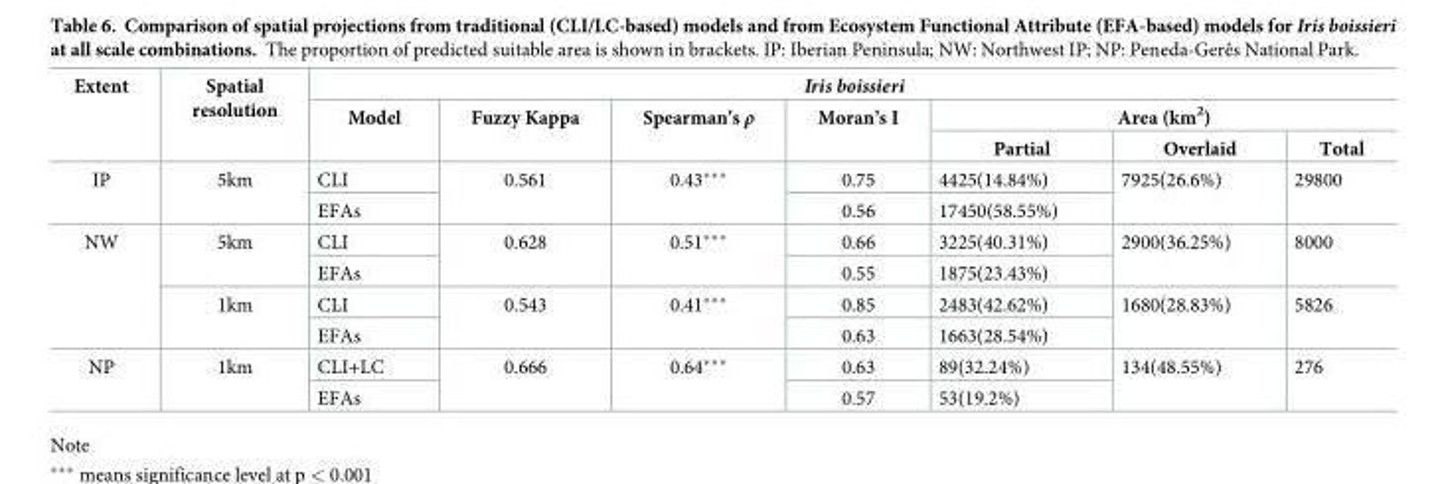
<table><thead><tr><td rowspan="3">Extent</td><td rowspan="3">Spatial resolution</td><td colspan="7">Iris boissieri</td></tr><tr><td rowspan="2">Model</td><td rowspan="2">Fuzzy Kappa</td><td rowspan="2">Spearman’s ρ</td><td rowspan="2">Moran’s I</td><td colspan="3">Area (km<sup>2</sup>)</td></tr><tr><td>Partial</td><td>Overlaid</td><td>Total</td></tr></thead><tbody><tr><td rowspan="2">IP</td><td rowspan="2">5km</td><td>CLI</td><td rowspan="2">0.561</td><td rowspan="2">0.43***</td><td>0.75</td><td>4425(14.84%)</td><td rowspan="2">7925(26.6%)</td><td rowspan="2">29800</td></tr><tr><td>EFAs</td><td>0.56</td><td>17450(58.55%)</td></tr><tr><td rowspan="4">NW</td><td rowspan="2">5km</td><td>CLI</td><td rowspan="2">0.628</td><td rowspan="2">0.51***</td><td>0.66</td><td>3225(40.31%)</td><td rowspan="2">2900(36.25%)</td><td rowspan="2">8000</td></tr><tr><td>EFAs</td><td>0.55</td><td>1875(23.43%)</td></tr><tr><td rowspan="2">1km</td><td>CLI</td><td rowspan="2">0.543</td><td rowspan="2">0.41***</td><td>0.85</td><td>2483(42.62%)</td><td rowspan="2">1680(28.83%)</td><td rowspan="2">5826</td></tr><tr><td>EFAs</td><td>0.63</td><td>1663(28.54%)</td></tr><tr><td rowspan="2">NP</td><td rowspan="2">1km</td><td>CLI+LC</td><td rowspan="2">0.666</td><td rowspan="2">0.64***</td><td>0.63</td><td>89(32.24%)</td><td rowspan="2">134(48.55%)</td><td rowspan="2">276</td></tr><tr><td>EFAs</td><td>0.57</td><td>53(19.2%)</td></tr></tbody></table>